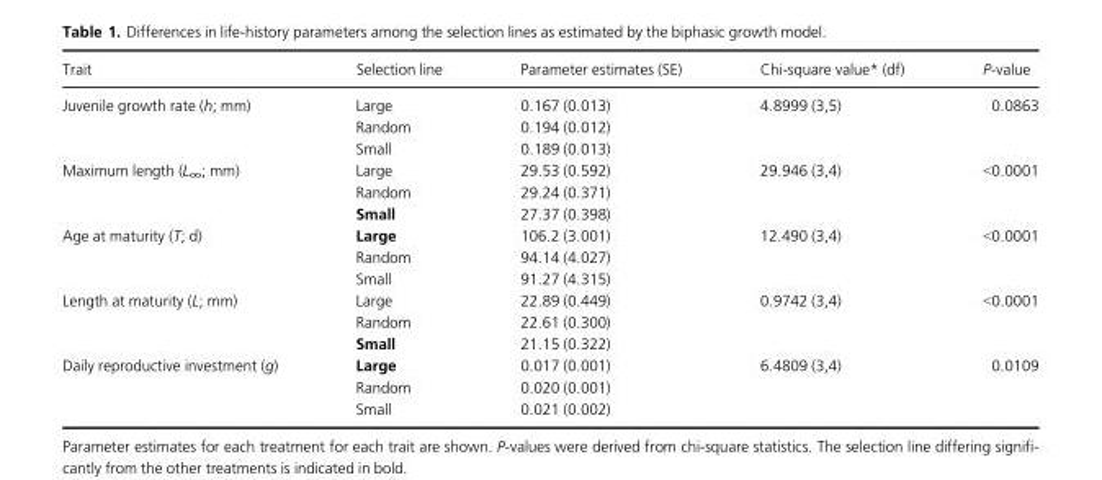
<table><thead><tr><td>Trait</td><td>Selection line</td><td>Parameter estimates (SE)</td><td>Chi-square value* (df)</td><td>P-value</td></tr></thead><tbody><tr><td rowspan="3">Juvenile growth rate (h; mm)</td><td>Large</td><td>0.167 (0.013)</td><td rowspan="3">4.8999 (3,5)</td><td rowspan="3">0.0863</td></tr><tr><td>Random</td><td>0.194 (0.012)</td></tr><tr><td>Small</td><td>0.189 (0.013)</td></tr><tr><td rowspan="3">Maximum length (L<sub>∞</sub>; mm)</td><td>Large</td><td>29.53 (0.592)</td><td rowspan="3">29.946 (3,4)</td><td rowspan="3">&lt;0.0001</td></tr><tr><td>Random</td><td>29.24 (0.371)</td></tr><tr><td>Small</td><td>27.37 (0.398)</td></tr><tr><td rowspan="3">Age at maturity (T; d)</td><td>Large</td><td>106.2 (3.001)</td><td rowspan="3">12.490 (3,4)</td><td rowspan="3">&lt;0.0001</td></tr><tr><td>Random</td><td>94.14 (4.027)</td></tr><tr><td>Small</td><td>91.27 (4.315)</td></tr><tr><td rowspan="3">Length at maturity (L; mm)</td><td>Large</td><td>22.89 (0.449)</td><td rowspan="3">0.9742 (3,4)</td><td rowspan="3">&lt;0.0001</td></tr><tr><td>Random</td><td>22.61 (0.300)</td></tr><tr><td>Small</td><td>21.15 (0.322)</td></tr><tr><td rowspan="3">Daily reproductive investment (g)</td><td>Large</td><td>0.017 (0.001)</td><td rowspan="3">6.4809 (3,4)</td><td rowspan="3">0.0109</td></tr><tr><td>Random</td><td>0.020 (0.001)</td></tr><tr><td>Small</td><td>0.021 (0.002)</td></tr></tbody></table>